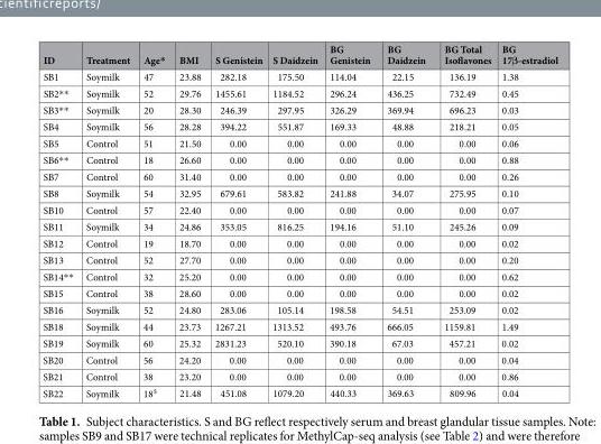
<table><thead><tr><td>ID</td><td>Treatment</td><td>Age*</td><td>BMI</td><td>S Genistein</td><td>S Daidzein</td><td>BG Genistein</td><td>BG Daidzein</td><td>BG Total Isoflavones</td><td>BG 17β-estradiol</td></tr></thead><tbody><tr><td>SB1</td><td>Soymilk</td><td>47</td><td>23.88</td><td>282.18</td><td>175.50</td><td>114.04</td><td>22.15</td><td>136.19</td><td>1.38</td></tr><tr><td>SB2**</td><td>Soymilk</td><td>52</td><td>29.76</td><td>1455.61</td><td>1184.52</td><td>296.24</td><td>436.25</td><td>732.49</td><td>0.45</td></tr><tr><td>SB3**</td><td>Soymilk</td><td>20</td><td>28.30</td><td>246.39</td><td>297.95</td><td>326.29</td><td>369.94</td><td>696.23</td><td>0.03</td></tr><tr><td>SB4</td><td>Soymilk</td><td>56</td><td>28.28</td><td>394.22</td><td>551.87</td><td>169.33</td><td>48.88</td><td>218.21</td><td>0.05</td></tr><tr><td>SB5</td><td>Control</td><td>51</td><td>21.50</td><td>0.00</td><td>0.00</td><td>0.00</td><td>0.00</td><td>0.00</td><td>0.06</td></tr><tr><td>SB6**</td><td>Control</td><td>18</td><td>26.60</td><td>0.00</td><td>0.00</td><td>0.00</td><td>0.00</td><td>0.00</td><td>0.88</td></tr><tr><td>SB7</td><td>Control</td><td>60</td><td>31.40</td><td>0.00</td><td>0.00</td><td>0.00</td><td>0.00</td><td>0.00</td><td>0.26</td></tr><tr><td>SB8</td><td>Soymilk</td><td>54</td><td>32.95</td><td>679.61</td><td>583.82</td><td>241.88</td><td>34.07</td><td>275.95</td><td>0.10</td></tr><tr><td>SB10</td><td>Control</td><td>57</td><td>22.40</td><td>0.00</td><td>0.00</td><td>0.00</td><td>0.00</td><td>0.00</td><td>0.07</td></tr><tr><td>SB11</td><td>Soymilk</td><td>34</td><td>24.86</td><td>353.05</td><td>816.25</td><td>194.16</td><td>51.10</td><td>245.26</td><td>0.09</td></tr><tr><td>SB12</td><td>Control</td><td>19</td><td>18.70</td><td>0.00</td><td>0.00</td><td>0.00</td><td>0.00</td><td>0.00</td><td>0.02</td></tr><tr><td>SB13</td><td>Control</td><td>52</td><td>27.70</td><td>0.00</td><td>0.00</td><td>0.00</td><td>0.00</td><td>0.00</td><td>0.20</td></tr><tr><td>SB14**</td><td>Control</td><td>32</td><td>25.20</td><td>0.00</td><td>0.00</td><td>0.00</td><td>0.00</td><td>0.00</td><td>0.62</td></tr><tr><td>SB15</td><td>Control</td><td>38</td><td>28.60</td><td>0.00</td><td>0.00</td><td>0.00</td><td>0.00</td><td>0.00</td><td>0.02</td></tr><tr><td>SB16</td><td>Soymilk</td><td>52</td><td>24.80</td><td>283.06</td><td>105.14</td><td>198.58</td><td>54.51</td><td>253.09</td><td>0.02</td></tr><tr><td>SB18</td><td>Soymilk</td><td>44</td><td>23.73</td><td>1267.21</td><td>1313.52</td><td>493.76</td><td>666.05</td><td>1159.81</td><td>1.49</td></tr><tr><td>SB19</td><td>Soymilk</td><td>60</td><td>25.32</td><td>2831.23</td><td>520.10</td><td>390.18</td><td>67.03</td><td>457.21</td><td>0.02</td></tr><tr><td>SB20</td><td>Control</td><td>56</td><td>24.20</td><td>0.00</td><td>0.00</td><td>0.00</td><td>0.00</td><td>0.00</td><td>0.04</td></tr><tr><td>SB21</td><td>Control</td><td>38</td><td>23.20</td><td>0.00</td><td>0.00</td><td>0.00</td><td>0.00</td><td>0.00</td><td>0.86</td></tr><tr><td>SB22</td><td>Soymilk</td><td>18<sup>$</sup></td><td>21.48</td><td>451.08</td><td>1079.20</td><td>440.33</td><td>369.63</td><td>809.96</td><td>0.04</td></tr></tbody></table>